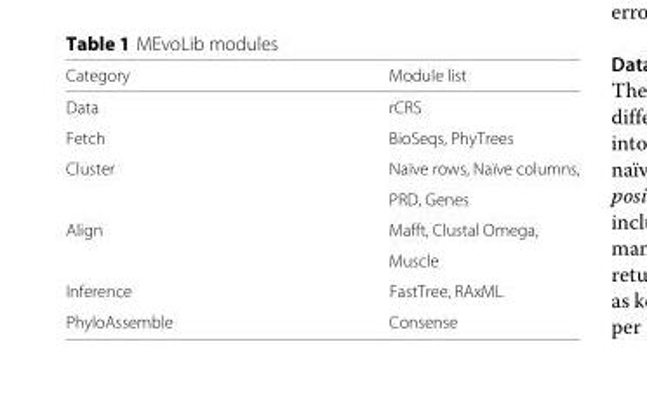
<table><thead><tr><td>Category</td><td>Module list</td></tr></thead><tbody><tr><td>Data</td><td>rCRS</td></tr><tr><td>Fetch</td><td>BioSeqs, PhyTrees</td></tr><tr><td rowspan="2">Cluster</td><td>Naïve rows, Naïve columns,</td></tr><tr><td>PRD, Genes</td></tr><tr><td rowspan="2">Align</td><td>Mafft, Clustal Omega,</td></tr><tr><td>Muscle</td></tr><tr><td>Inference</td><td>FastTree, RAxML</td></tr><tr><td>PhyloAssemble</td><td>Consense</td></tr></tbody></table>